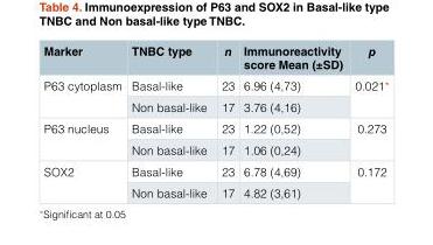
<table><thead><tr><td>Marker</td><td>TNBC type</td><td>n</td><td>Immunoreactivity score Mean (±SD)</td><td>p</td></tr></thead><tbody><tr><td rowspan="2">P63 cytoplasm</td><td>Basal-like</td><td>23</td><td>6.96 (4,73)</td><td rowspan="2">0.021*</td></tr><tr><td>Non basal-like</td><td>17</td><td>3.76 (4,16)</td></tr><tr><td rowspan="2">P63 nucleus</td><td>Basal-like</td><td>23</td><td>1.22 (0,52)</td><td rowspan="2">0.273</td></tr><tr><td>Non basal-like</td><td>17</td><td>1.06 (0,24)</td></tr><tr><td rowspan="2">SOX2</td><td>Basal-like</td><td>23</td><td>6.78 (4,69)</td><td rowspan="2">0.172</td></tr><tr><td>Non basal-like</td><td>17</td><td>4.82 (3,61)</td></tr></tbody></table>